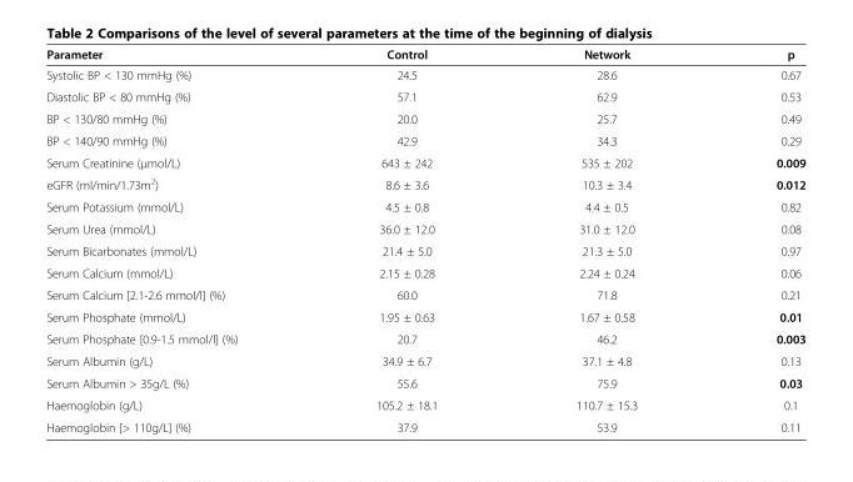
<table><thead><tr><td>Parameter</td><td>Control</td><td>Network</td><td>p</td></tr></thead><tbody><tr><td>Systolic BP &lt; 130 mmHg (%)</td><td>24.5</td><td>28.6</td><td>0.67</td></tr><tr><td>Diastolic BP &lt; 80 mmHg (%)</td><td>57.1</td><td>62.9</td><td>0.53</td></tr><tr><td>BP &lt; 130/80 mmHg (%)</td><td>20.0</td><td>25.7</td><td>0.49</td></tr><tr><td>BP &lt; 140/90 mmHg (%)</td><td>42.9</td><td>34.3</td><td>0.29</td></tr><tr><td>Serum Creatinine (μmol/L)</td><td>643 ± 242</td><td>535 ± 202</td><td>0.009</td></tr><tr><td>eGFR (ml/min/1.73m<sup>2</sup>)</td><td>8.6 ± 3.6</td><td>10.3 ± 3.4</td><td>0.012</td></tr><tr><td>Serum Potassium (mmol/L)</td><td>4.5 ± 0.8</td><td>4.4 ± 0.5</td><td>0.82</td></tr><tr><td>Serum Urea (mmol/L)</td><td>36.0 ± 12.0</td><td>31.0 ± 12.0</td><td>0.08</td></tr><tr><td>Serum Bicarbonates (mmol/L)</td><td>21.4 ± 5.0</td><td>21.3 ± 5.0</td><td>0.97</td></tr><tr><td>Serum Calcium (mmol/L)</td><td>2.15 ± 0.28</td><td>2.24 ± 0.24</td><td>0.06</td></tr><tr><td>Serum Calcium [2.1-2.6 mmol/l] (%)</td><td>60.0</td><td>71.8</td><td>0.21</td></tr><tr><td>Serum Phosphate (mmol/L)</td><td>1.95 ± 0.63</td><td>1.67 ± 0.58</td><td>0.01</td></tr><tr><td>Serum Phosphate [0.9-1.5 mmol/l] (%)</td><td>20.7</td><td>46.2</td><td>0.003</td></tr><tr><td>Serum Albumin (g/L)</td><td>34.9 ± 6.7</td><td>37.1 ± 4.8</td><td>0.13</td></tr><tr><td>Serum Albumin &gt; 35g/L (%)</td><td>55.6</td><td>75.9</td><td>0.03</td></tr><tr><td>Haemoglobin (g/L)</td><td>105.2 ± 18.1</td><td>110.7 ± 15.3</td><td>0.1</td></tr><tr><td>Haemoglobin [&gt; 110g/L] (%)</td><td>37.9</td><td>53.9</td><td>0.11</td></tr></tbody></table>